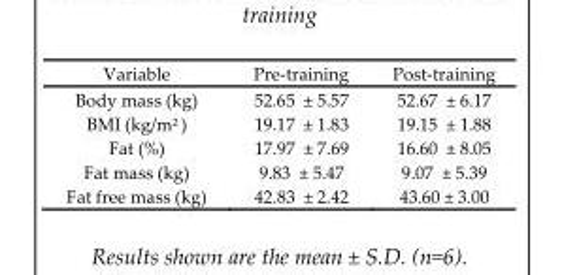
<table><thead><tr><td>Variable</td><td>Pre-training</td><td>Post-training</td></tr></thead><tbody><tr><td>Body mass (kg)</td><td>52.65 ± 5.57</td><td>52.67 ± 6.17</td></tr><tr><td>BMI (kg/m<sup>2</sup> )</td><td>19.17 ± 1.83</td><td>19.15 ± 1.88</td></tr><tr><td>Fat (%)</td><td>17.97 ± 7.69</td><td>16.60 ± 8.05</td></tr><tr><td>Fat mass (kg)</td><td>9.83 ± 5.47</td><td>9.07 ± 5.39</td></tr><tr><td>Fat free mass (kg)</td><td>42.83 ± 2.42</td><td>43.60 ± 3.00</td></tr></tbody></table>